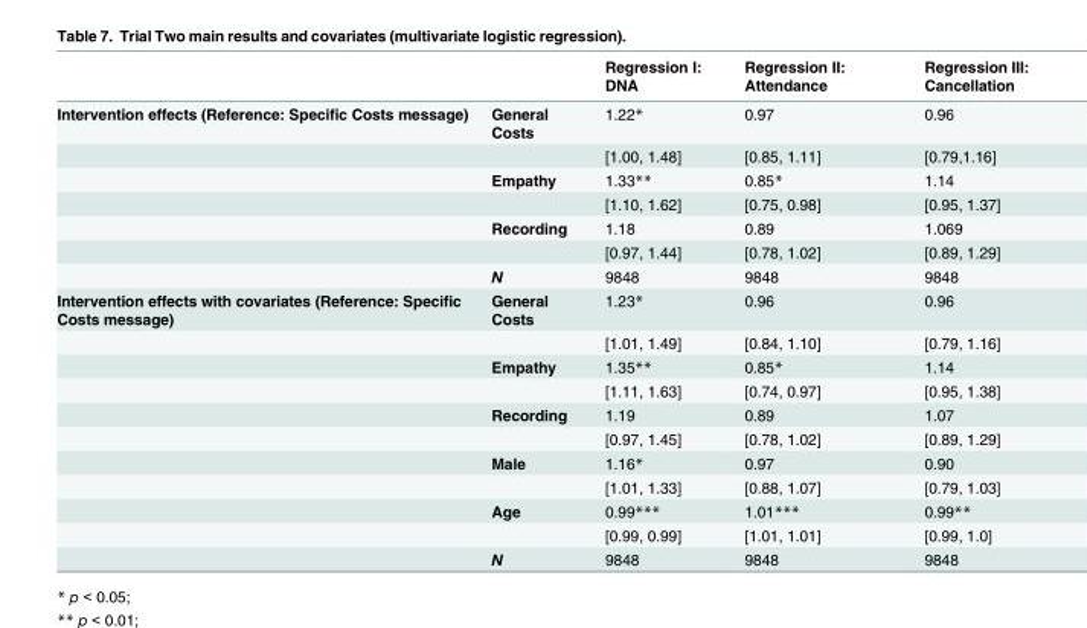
<table><thead><tr><td></td><td></td><td>Regression I: DNA</td><td>Regression II: Attendance</td><td>Regression III: Cancellation</td></tr></thead><tbody><tr><td rowspan="7">Intervention effects (Reference: Specific Costs message)</td><td>General Costs</td><td>1.22*</td><td>0.97</td><td>0.96</td></tr><tr><td></td><td>[1.00, 1.48]</td><td>[0.85, 1.11]</td><td>[0.79,1.16]</td></tr><tr><td>Empathy</td><td>1.33**</td><td>0.85*</td><td>1.14</td></tr><tr><td></td><td>[1.10, 1.62]</td><td>[0.75, 0.98]</td><td>[0.95, 1.37]</td></tr><tr><td>Recording</td><td>1.18</td><td>0.89</td><td>1.069</td></tr><tr><td></td><td>[0.97, 1.44]</td><td>[0.78, 1.02]</td><td>[0.89, 1.29]</td></tr><tr><td>N</td><td>9848</td><td>9848</td><td>9848</td></tr><tr><td rowspan="11">Intervention effects with covariates (Reference: Specific Costs message)</td><td>General Costs</td><td>1.23*</td><td>0.96</td><td>0.96</td></tr><tr><td></td><td>[1.01, 1.49]</td><td>[0.84, 1.10]</td><td>[0.79, 1.16]</td></tr><tr><td>Empathy</td><td>1.35**</td><td>0.85*</td><td>1.14</td></tr><tr><td></td><td>[1.11, 1.63]</td><td>[0.74, 0.97]</td><td>[0.95, 1.38]</td></tr><tr><td>Recording</td><td>1.19</td><td>0.89</td><td>1.07</td></tr><tr><td></td><td>[0.97, 1.45]</td><td>[0.78, 1.02]</td><td>[0.89, 1.29]</td></tr><tr><td>Male</td><td>1.16*</td><td>0.97</td><td>0.90</td></tr><tr><td></td><td>[1.01, 1.33]</td><td>[0.88, 1.07]</td><td>[0.79, 1.03]</td></tr><tr><td>Age</td><td>0.99***</td><td>1.01***</td><td>0.99**</td></tr><tr><td></td><td>[0.99, 0.99]</td><td>[1.01, 1.01]</td><td>[0.99, 1.0]</td></tr><tr><td>N</td><td>9848</td><td>9848</td><td>9848</td></tr></tbody></table>